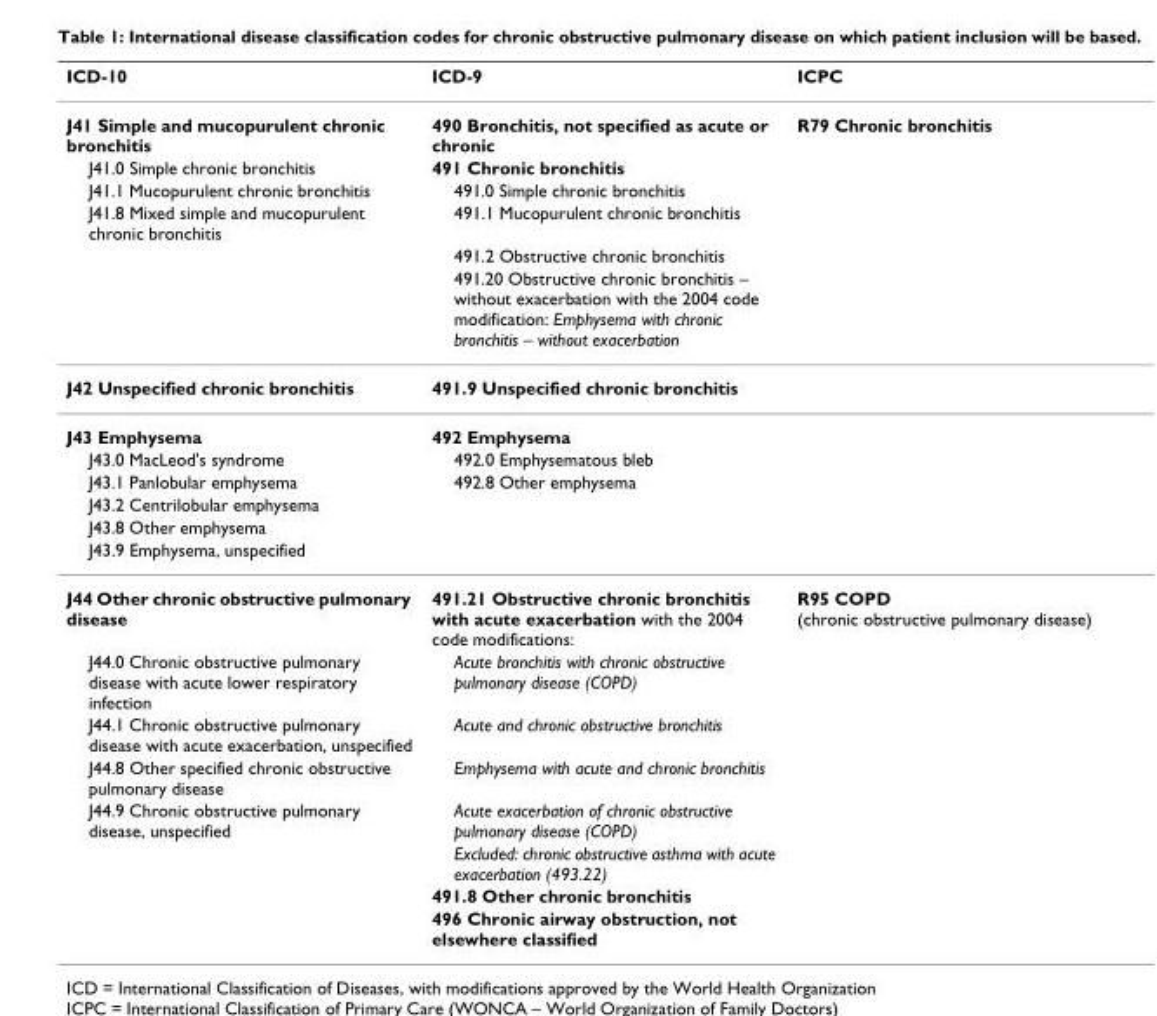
<table><thead><tr><td>ICD-10</td><td>ICD-9</td><td>ICPC</td></tr></thead><tbody><tr><td>J41 Simple and mucopurulent chronic bronchitis</td><td>490 Bronchitis, not specified as acute or chronic</td><td>R79 Chronic bronchitis</td></tr><tr><td>J41.0 Simple chronic bronchitis</td><td>491 Chronic bronchitis</td><td></td></tr><tr><td>J41.1 Mucopurulent chronic bronchitis</td><td>491.0 Simple chronic bronchitis</td><td></td></tr><tr><td rowspan="3">J41.8 Mixed simple and mucopurulent chronic bronchitis</td><td>491.1 Mucopurulent chronic bronchitis</td><td></td></tr><tr><td>491.2 Obstructive chronic bronchitis</td><td></td></tr><tr><td>491.20 Obstructive chronic bronchitis – without exacerbation with the 2004 code modification: Emphysema with chronic bronchitis – without exacerbation</td><td></td></tr><tr><td>J42 Unspecified chronic bronchitis</td><td>491.9 Unspecified chronic bronchitis</td><td></td></tr><tr><td>J43 Emphysema</td><td>492 Emphysema</td><td></td></tr><tr><td>J43.0 MacLeod&#x27;s syndrome</td><td>492.0 Emphysematous bleb</td><td></td></tr><tr><td>J43.1 Panlobular emphysema</td><td>492.8 Other emphysema</td><td></td></tr><tr><td colspan="3">J43.2 Centrilobular emphysema</td></tr><tr><td colspan="3">J43.8 Other emphysema</td></tr><tr><td colspan="3">J43.9 Emphysema, unspecified</td></tr><tr><td>J44 Other chronic obstructive pulmonary disease</td><td>491.21 Obstructive chronic bronchitis with acute exacerbation with the 2004 code modifications:</td><td>R95 COPD (chronic obstructive pulmonary disease)</td></tr><tr><td>J44.0 Chronic obstructive pulmonary disease with acute lower respiratory infection</td><td>Acute bronchitis with chronic obstructive pulmonary disease (COPD)</td><td></td></tr><tr><td>J44.1 Chronic obstructive pulmonary disease with acute exacerbation, unspecified</td><td>Acute and chronic obstructive bronchitis</td><td></td></tr><tr><td>J44.8 Other specified chronic obstructive pulmonary disease</td><td>Emphysema with acute and chronic bronchitis</td><td></td></tr><tr><td rowspan="4">J44.9 Chronic obstructive pulmonary disease, unspecified</td><td>Acute exacerbation of chronic obstructive pulmonary disease (COPD)</td><td></td></tr><tr><td>Excluded: chronic obstructive asthma with acute exacerbation (493.22)</td><td></td></tr><tr><td>491.8 Other chronic bronchitis</td><td></td></tr><tr><td>496 Chronic airway obstruction, not elsewhere classified</td><td></td></tr></tbody></table>